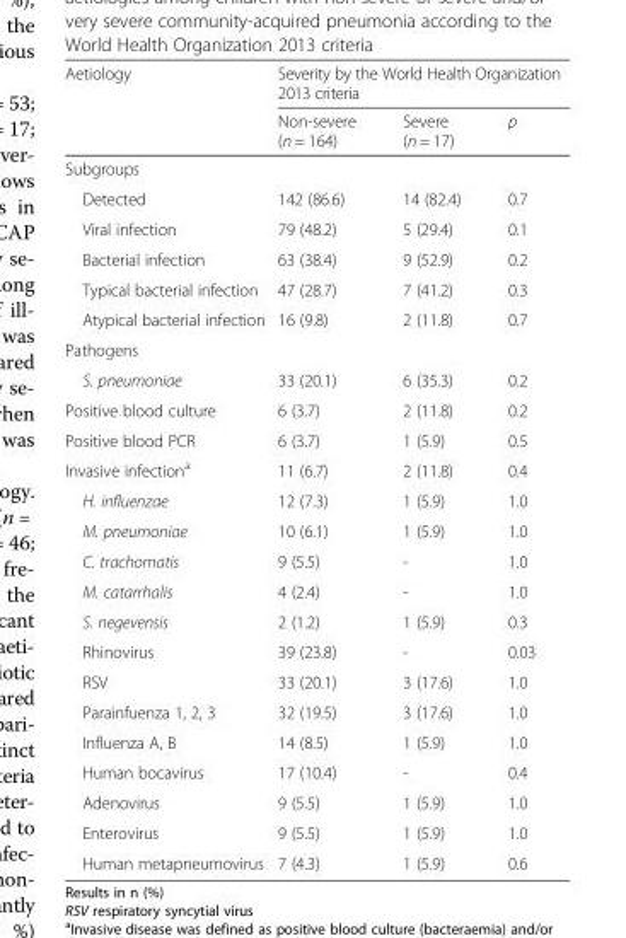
<table><thead><tr><td rowspan="2">Aetiology</td><td colspan="3">Severity by the World Health Organization 2013 criteria</td></tr><tr><td>Non-severe (n = 164)</td><td>Severe (n = 17)</td><td>p</td></tr></thead><tbody><tr><td colspan="4">Subgroups</td></tr><tr><td>Detected</td><td>142 (86.6)</td><td>14 (82.4)</td><td>0.7</td></tr><tr><td>Viral infection</td><td>79 (48.2)</td><td>5 (29.4)</td><td>0.1</td></tr><tr><td>Bacterial infection</td><td>63 (38.4)</td><td>9 (52.9)</td><td>0.2</td></tr><tr><td>Typical bacterial infection</td><td>47 (28.7)</td><td>7 (41.2)</td><td>0.3</td></tr><tr><td>Atypical bacterial infection</td><td>16 (9.8)</td><td>2 (11.8)</td><td>0.7</td></tr><tr><td colspan="4">Pathogens</td></tr><tr><td>S. pneumoniae</td><td>33 (20.1)</td><td>6 (35.3)</td><td>0.2</td></tr><tr><td>Positive blood culture</td><td>6 (3.7)</td><td>2 (11.8)</td><td>0.2</td></tr><tr><td>Positive blood PCR</td><td>6 (3.7)</td><td>1 (5.9)</td><td>0.5</td></tr><tr><td>Invasive infection<sup>a</sup></td><td>11 (6.7)</td><td>2 (11.8)</td><td>0.4</td></tr><tr><td>H. influenzae</td><td>12 (7.3)</td><td>1 (5.9)</td><td>1.0</td></tr><tr><td>M. pneumoniae</td><td>10 (6.1)</td><td>1 (5.9)</td><td>1.0</td></tr><tr><td>C. trachomatis</td><td>9 (5.5)</td><td>-</td><td>1.0</td></tr><tr><td>M. catarrhalis</td><td>4 (2.4)</td><td>-</td><td>1.0</td></tr><tr><td>S. negevensis</td><td>2 (1.2)</td><td>1 (5.9)</td><td>0.3</td></tr><tr><td>Rhinovirus</td><td>39 (23.8)</td><td>-</td><td>0.03</td></tr><tr><td>RSV</td><td>33 (20.1)</td><td>3 (17.6)</td><td>1.0</td></tr><tr><td>Parainfuenza 1, 2, 3</td><td>32 (19.5)</td><td>3 (17.6)</td><td>1.0</td></tr><tr><td>Influenza A, B</td><td>14 (8.5)</td><td>1 (5.9)</td><td>1.0</td></tr><tr><td>Human bocavirus</td><td>17 (10.4)</td><td>-</td><td>0.4</td></tr><tr><td>Adenovirus</td><td>9 (5.5)</td><td>1 (5.9)</td><td>1.0</td></tr><tr><td>Enterovirus</td><td>9 (5.5)</td><td>1 (5.9)</td><td>1.0</td></tr><tr><td>Human metapneumovirus</td><td>7 (4.3)</td><td>1 (5.9)</td><td>0.6</td></tr></tbody></table>